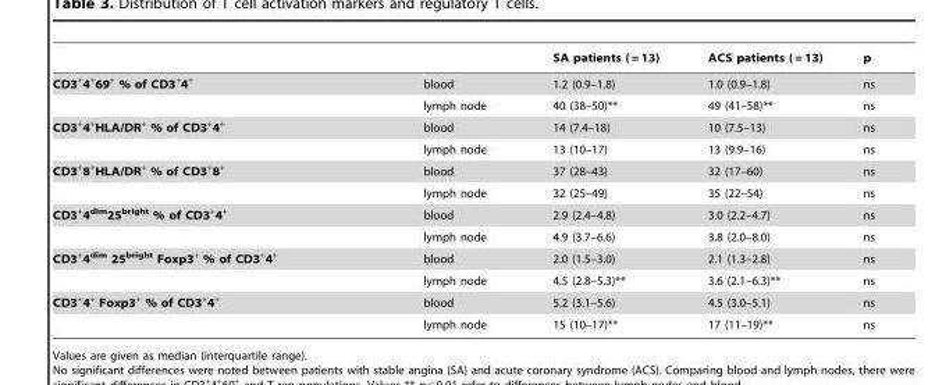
<table><thead><tr><td></td><td></td><td>SA patients ( = 13)</td><td>ACS patients ( = 13)</td><td>p</td></tr></thead><tbody><tr><td rowspan="2">CD3<sup>+</sup>4<sup>+</sup>69<sup>+</sup> % of CD3<sup>+</sup>4<sup>+</sup></td><td>blood</td><td>1.2 (0.9–1.8)</td><td>1.0 (0.9–1.8)</td><td>ns</td></tr><tr><td>lymph node</td><td>40 (38–50)**</td><td>49 (41–58)**</td><td>ns</td></tr><tr><td rowspan="2">CD3<sup>+</sup>4<sup>+</sup>HLA/DR<sup>+</sup> % of CD3<sup>+</sup>4<sup>+</sup></td><td>blood</td><td>14 (7.4–18)</td><td>10 (7.5–13)</td><td>ns</td></tr><tr><td>lymph node</td><td>13 (10–17)</td><td>13 (9.9–16)</td><td>ns</td></tr><tr><td rowspan="2">CD3<sup>+</sup>8<sup>+</sup>HLA/DR<sup>+</sup> % of CD3<sup>+</sup>8<sup>+</sup></td><td>blood</td><td>37 (28–43)</td><td>32 (17–60)</td><td>ns</td></tr><tr><td>lymph node</td><td>32 (25–49)</td><td>35 (22–54)</td><td>ns</td></tr><tr><td rowspan="2">CD3<sup>+</sup>4<sup>dim</sup>25<sup>bright</sup> % of CD3<sup>+</sup>4<sup>+</sup></td><td>blood</td><td>2.9 (2.4–4.8)</td><td>3.0 (2.2–4.7)</td><td>ns</td></tr><tr><td>lymph node</td><td>4.9 (3.7–6.6)</td><td>3.8 (2.0–8.0)</td><td>ns</td></tr><tr><td rowspan="2">CD3<sup>+</sup>4<sup>dim</sup> 25<sup>bright</sup> Foxp3<sup>+</sup> % of CD3<sup>+</sup>4<sup>+</sup></td><td>blood</td><td>2.0 (1.5–3.0)</td><td>2.1 (1.3–2.8)</td><td>ns</td></tr><tr><td>lymph node</td><td>4.5 (2.8–5.3)**</td><td>3.6 (2.1–6.3)**</td><td>ns</td></tr><tr><td rowspan="2">CD3<sup>+</sup>4<sup>+</sup> Foxp3<sup>+</sup> % of CD3<sup>+</sup>4<sup>+</sup></td><td>blood</td><td>5.2 (3.1–5.6)</td><td>4.5 (3.0–5.1)</td><td>ns</td></tr><tr><td>lymph node</td><td>15 (10–17)**</td><td>17 (11–19)**</td><td>ns</td></tr></tbody></table>